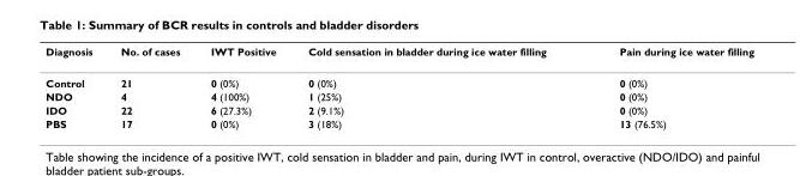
<table><thead><tr><td>Diagnosis</td><td>No. of cases</td><td>IWT Positive</td><td>Cold sensation in bladder during ice water filling</td><td>Pain during ice water filling</td></tr></thead><tbody><tr><td>Control</td><td>21</td><td>0 (0%)</td><td>0 (0%)</td><td>0 (0%)</td></tr><tr><td>NDO</td><td>4</td><td>4 (100%)</td><td>1 (25%)</td><td>0 (0%)</td></tr><tr><td>IDO</td><td>22</td><td>6 (27.3%)</td><td>2 (9.1%)</td><td>0 (0%)</td></tr><tr><td>PBS</td><td>17</td><td>0 (0%)</td><td>3 (18%)</td><td>13 (76.5%)</td></tr></tbody></table>